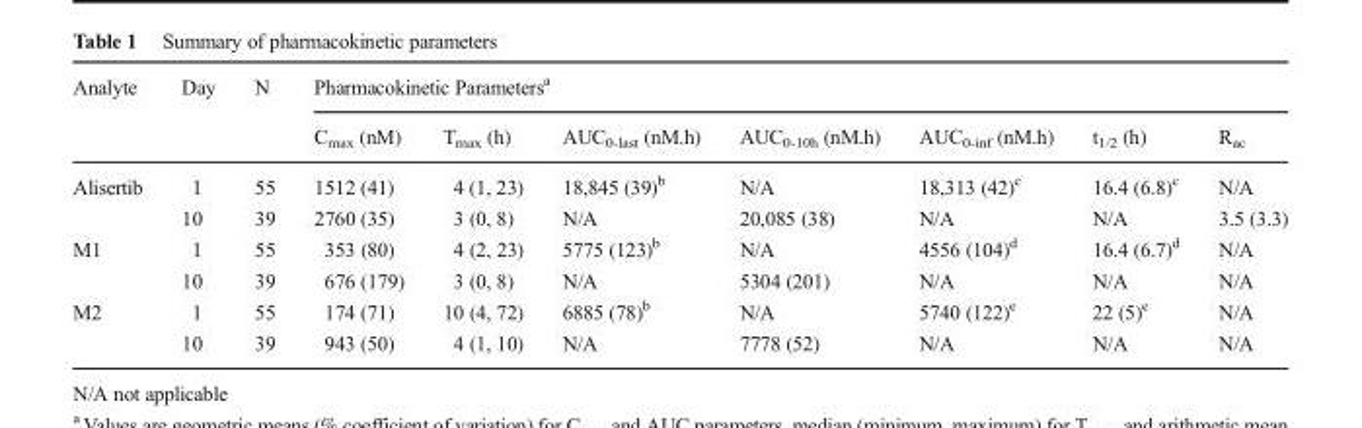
<table><thead><tr><td rowspan="2">Analyte</td><td rowspan="2">Day</td><td rowspan="2">N</td><td colspan="7">Pharmacokinetic Parameters<sup>a</sup></td></tr><tr><td>C<sub>max</sub> (nM)</td><td>T<sub>max</sub> (h)</td><td>AUC<sub>0-last</sub> (nM.h)</td><td>AUC<sub>0-10h</sub> (nM.h)</td><td>AUC<sub>0-inf</sub> (nM.h)</td><td>t<sub>1/2</sub> (h)</td><td>R<sub>ac</sub></td></tr></thead><tbody><tr><td rowspan="2">Alisertib</td><td>1</td><td>55</td><td>1512 (41)</td><td>4 (1, 23)</td><td>18,845 (39)<sup>b</sup></td><td>N/A</td><td>18,313 (42)<sup>c</sup></td><td>16.4 (6.8)<sup>c</sup></td><td>N/A</td></tr><tr><td>10</td><td>39</td><td>2760 (35)</td><td>3 (0, 8)</td><td>N/A</td><td>20,085 (38)</td><td>N/A</td><td>N/A</td><td>3.5 (3.3)</td></tr><tr><td rowspan="2">M1</td><td>1</td><td>55</td><td>353 (80)</td><td>4 (2, 23)</td><td>5775 (123)<sup>b</sup></td><td>N/A</td><td>4556 (104)<sup>d</sup></td><td>16.4 (6.7)<sup>d</sup></td><td>N/A</td></tr><tr><td>10</td><td>39</td><td>676 (179)</td><td>3 (0, 8)</td><td>N/A</td><td>5304 (201)</td><td>N/A</td><td>N/A</td><td>N/A</td></tr><tr><td rowspan="2">M2</td><td>1</td><td>55</td><td>174 (71)</td><td>10 (4, 72)</td><td>6885 (78)<sup>b</sup></td><td>N/A</td><td>5740 (122)<sup>e</sup></td><td>22 (5)<sup>e</sup></td><td>N/A</td></tr><tr><td>10</td><td>39</td><td>943 (50)</td><td>4 (1, 10)</td><td>N/A</td><td>7778 (52)</td><td>N/A</td><td>N/A</td><td>N/A</td></tr></tbody></table>